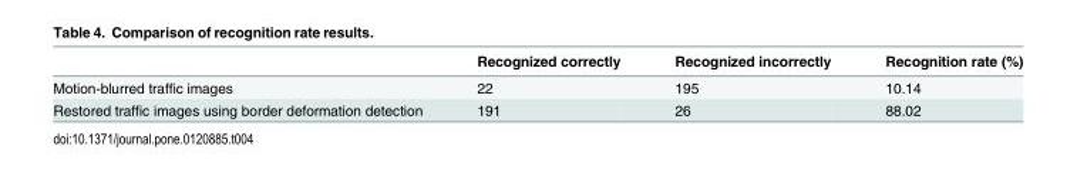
<table><thead><tr><td></td><td>Recognized correctly</td><td>Recognized incorrectly</td><td>Recognition rate (%)</td></tr></thead><tbody><tr><td>Motion-blurred traffic images</td><td>22</td><td>195</td><td>10.14</td></tr><tr><td>Restored traffic images using border deformation detection</td><td>191</td><td>26</td><td>88.02</td></tr></tbody></table>